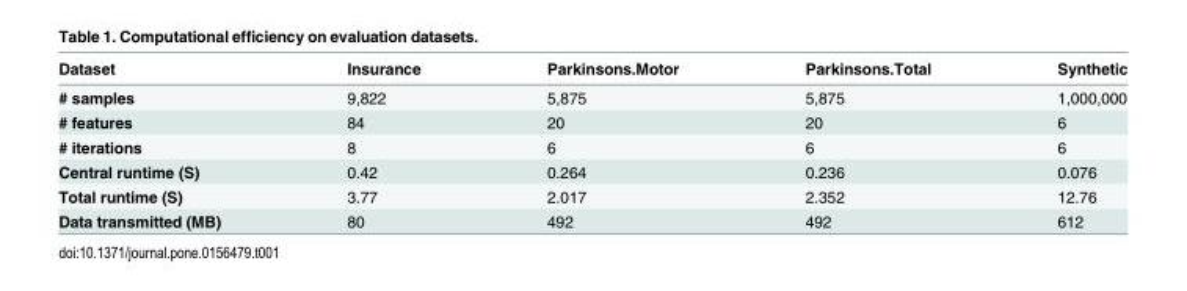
<table><thead><tr><td>Dataset</td><td>Insurance</td><td>Parkinsons.Motor</td><td>Parkinsons.Total</td><td>Synthetic</td></tr></thead><tbody><tr><td># samples</td><td>9,822</td><td>5,875</td><td>5,875</td><td>1,000,000</td></tr><tr><td># features</td><td>84</td><td>20</td><td>20</td><td>6</td></tr><tr><td># iterations</td><td>8</td><td>6</td><td>6</td><td>6</td></tr><tr><td>Central runtime (S)</td><td>0.42</td><td>0.264</td><td>0.236</td><td>0.076</td></tr><tr><td>Total runtime (S)</td><td>3.77</td><td>2.017</td><td>2.352</td><td>12.76</td></tr><tr><td>Data transmitted (MB)</td><td>80</td><td>492</td><td>492</td><td>612</td></tr></tbody></table>